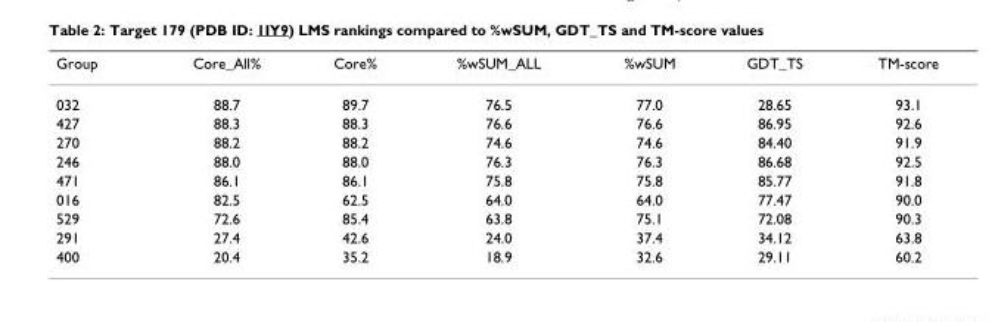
<table><thead><tr><td>Group</td><td>Core_All%</td><td>Core%</td><td>%wSUM_ALL</td><td>%wSUM</td><td>GDT_TS</td><td>TM-score</td></tr></thead><tbody><tr><td>032</td><td>88.7</td><td>89.7</td><td>76.5</td><td>77.0</td><td>28.65</td><td>93.1</td></tr><tr><td>427</td><td>88.3</td><td>88.3</td><td>76.6</td><td>76.6</td><td>86.95</td><td>92.6</td></tr><tr><td>270</td><td>88.2</td><td>88.2</td><td>74.6</td><td>74.6</td><td>84.40</td><td>91.9</td></tr><tr><td>246</td><td>88.0</td><td>88.0</td><td>76.3</td><td>76.3</td><td>86.68</td><td>92.5</td></tr><tr><td>471</td><td>86.1</td><td>86.1</td><td>75.8</td><td>75.8</td><td>85.77</td><td>91.8</td></tr><tr><td>016</td><td>82.5</td><td>62.5</td><td>64.0</td><td>64.0</td><td>77.47</td><td>90.0</td></tr><tr><td>529</td><td>72.6</td><td>85.4</td><td>63.8</td><td>75.1</td><td>72.08</td><td>90.3</td></tr><tr><td>291</td><td>27.4</td><td>42.6</td><td>24.0</td><td>37.4</td><td>34.12</td><td>63.8</td></tr><tr><td>400</td><td>20.4</td><td>35.2</td><td>18.9</td><td>32.6</td><td>29.11</td><td>60.2</td></tr></tbody></table>